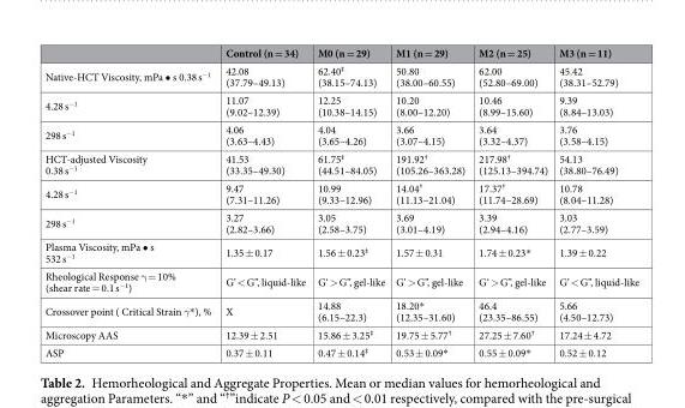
<table><thead><tr><td></td><td>Control (n = 34)</td><td>M0 (n = 29)</td><td>M1 (n = 29)</td><td>M2 (n = 25)</td><td>M3 (n = 11)</td></tr></thead><tbody><tr><td>Native-HCT Viscosity, mPa • s 0.38 s<sup>−1</sup></td><td>42.08 (37.79–49.13)</td><td>62.40<sup>‡</sup> (38.15–74.13)</td><td>50.80 (38.00–60.55)</td><td>62.00 (52.80–69.00)</td><td>45.42 (38.31–52.79)</td></tr><tr><td>4.28 s<sup>−1</sup></td><td>11.07 (9.02–12.39)</td><td>12.25 (10.38–14.15)</td><td>10.20 (8.00–12.20)</td><td>10.46 (8.99–15.60)</td><td>9.39 (8.84–13.03)</td></tr><tr><td>298 s<sup>−1</sup></td><td>4.06 (3.63–4.43)</td><td>4.04 (3.65–4.26)</td><td>3.66 (3.07–4.15)</td><td>3.64 (3.32–4.37)</td><td>3.76 (3.58–4.15)</td></tr><tr><td>HCT-adjusted Viscosity 0.38 s<sup>−1</sup></td><td>41.53 (33.35–49.30)</td><td>61.75<sup>‡</sup> (44.51–84.05)</td><td>191.92<sup>†</sup> (105.26–363.28)</td><td>217.98<sup>†</sup> (125.13–394.74)</td><td>54.13 (38.80–76.49)</td></tr><tr><td>4.28 s<sup>−1</sup></td><td>9.47 (7.31–11.26)</td><td>10.99 (9.33–12.96)</td><td>14.04<sup>†</sup> (11.13–21.04)</td><td>17.37<sup>†</sup> (11.74–28.69)</td><td>10.78 (8.04–11.28)</td></tr><tr><td>298 s<sup>−1</sup></td><td>3.27 (2.82–3.66)</td><td>3.05 (2.58–3.75)</td><td>3.69 (3.01–4.19)</td><td>3.39 (2.94–4.16)</td><td>3.03 (2.77–3.59)</td></tr><tr><td>Plasma Viscosity, mPa • s 532 s<sup>−1</sup></td><td>1.35 ± 0.17</td><td>1.56 ± 0.23<sup>‡</sup></td><td>1.57 ± 0.31</td><td>1.74 ± 0.23*</td><td>1.39 ± 0.22</td></tr><tr><td>Rheological Response γ = 10% (shear rate = 0.1 s<sup>−1</sup>)</td><td>G’ &lt; G”, liquid-like</td><td>G‘ &gt; G”, gel-like</td><td>G’ &gt; G”, gel-like</td><td>G‘ &gt; G”, gel-like</td><td>G’ &lt; G”, liquid-like</td></tr><tr><td>Crossover point ( Critical Strain γ*), %</td><td>X</td><td>14.88 (6.15–22.3)</td><td>18.20* (12.35–31.60)</td><td>46.4 (23.35–86.55)</td><td>5.66 (4.50–12.73)</td></tr><tr><td>Microscopy AAS</td><td>12.39 ± 2.51</td><td>15.86 ± 3.25<sup>‡</sup></td><td>19.75 ± 5.77<sup>†</sup></td><td>27.25 ± 7.60<sup>†</sup></td><td>17.24 ± 4.72</td></tr><tr><td>ASP</td><td>0.37 ± 0.11</td><td>0.47 ± 0.14<sup>‡</sup></td><td>0.53 ± 0.09*</td><td>0.55 ± 0.09*</td><td>0.52 ± 0.12</td></tr></tbody></table>